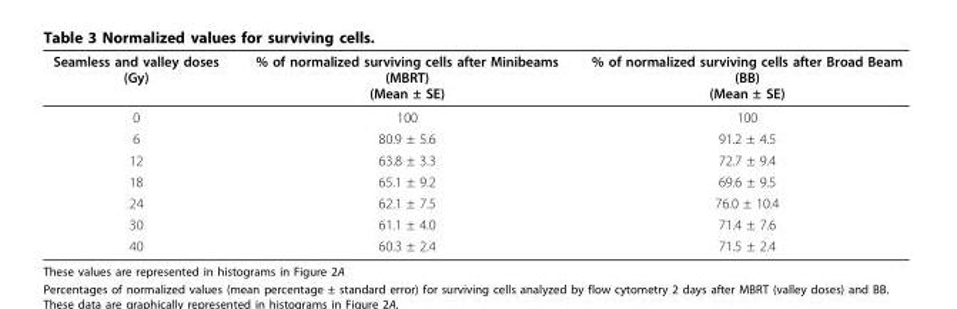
<table><thead><tr><td>Seamless and valley doses (Gy)</td><td>% of normalized surviving cells after Minibeams (MBRT) (Mean ± SE)</td><td>% of normalized surviving cells after Broad Beam (BB) (Mean ± SE)</td></tr></thead><tbody><tr><td>0</td><td>100</td><td>100</td></tr><tr><td>6</td><td>80.9 ± 5.6</td><td>91.2 ± 4.5</td></tr><tr><td>12</td><td>63.8 ± 3.3</td><td>72.7 ± 9.4</td></tr><tr><td>18</td><td>65.1 ± 9.2</td><td>69.6 ± 9.5</td></tr><tr><td>24</td><td>62.1 ± 7.5</td><td>76.0 ± 10.4</td></tr><tr><td>30</td><td>61.1 ± 4.0</td><td>71.4 ± 7.6</td></tr><tr><td>40</td><td>60.3 ± 2.4</td><td>71.5 ± 2.4</td></tr></tbody></table>